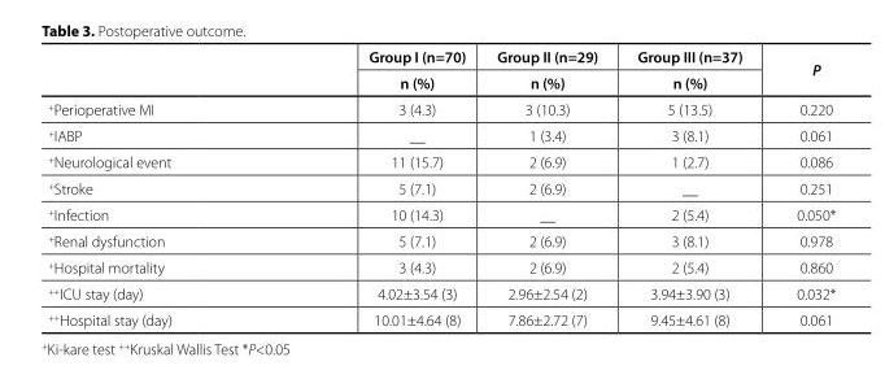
<table><thead><tr><td rowspan="2"></td><td rowspan="2">Group I (n=70) n (%)</td><td rowspan="2">Group II (n=29) n (%)</td><td rowspan="2">Group III (n=37) n (%)</td><td rowspan="2">P</td></tr><tr></tr></thead><tbody><tr><td><sup>+</sup>Perioperative MI</td><td>3 (4.3)</td><td>3 (10.3)</td><td>5 (13.5)</td><td>0.220</td></tr><tr><td><sup>+</sup>IABP</td><td>__</td><td>1 (3.4)</td><td>3 (8.1)</td><td>0.061</td></tr><tr><td><sup>+</sup>Neurological event</td><td>11 (15.7)</td><td>2 (6.9)</td><td>1 (2.7)</td><td>0.086</td></tr><tr><td><sup>+</sup>Stroke</td><td>5 (7.1)</td><td>2 (6.9)</td><td>__</td><td>0.251</td></tr><tr><td><sup>+</sup>Infection</td><td>10 (14.3)</td><td>__</td><td>2 (5.4)</td><td>0.050*</td></tr><tr><td><sup>+</sup>Renal dysfunction</td><td>5 (7.1)</td><td>2 (6.9)</td><td>3 (8.1)</td><td>0.978</td></tr><tr><td><sup>+</sup>Hospital mortality</td><td>3 (4.3)</td><td>2 (6.9)</td><td>2 (5.4)</td><td>0.860</td></tr><tr><td><sup>++</sup>ICU stay (day)</td><td>4.02±3.54 (3)</td><td>2.96±2.54 (2)</td><td>3.94±3.90 (3)</td><td>0.032*</td></tr><tr><td><sup>++</sup>Hospital stay (day)</td><td>10.01±4.64 (8)</td><td>7.86±2.72 (7)</td><td>9.45±4.61 (8)</td><td>0.061</td></tr></tbody></table>